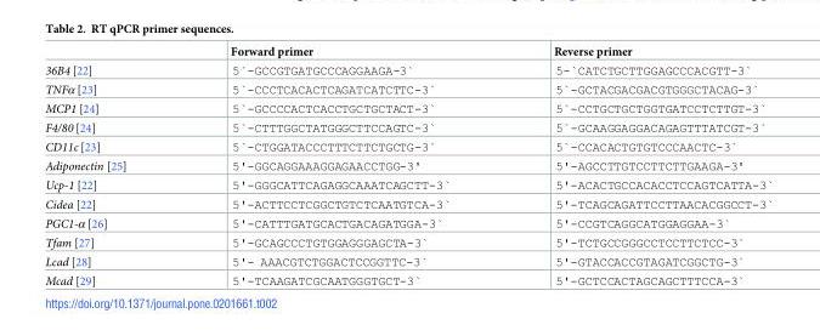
<table><thead><tr><td></td><td>Forward primer</td><td>Reverse primer</td></tr></thead><tbody><tr><td>36B4 [22]</td><td>5`-GCCGTGATGCCCAGGAAGA-3`</td><td>5-`CATCTGCTTGGAGCCCACGTT-3`</td></tr><tr><td>TNFα [23]</td><td>5`-CCCTCACACTCAGATCATCTTC-3`</td><td>5`-GCTACGACGACGTGGGCTACAG-3`</td></tr><tr><td>MCP1 [24]</td><td>5`-GCCCCACTCACCTGCTGCTACT-3`</td><td>5`-CCTGCTGCTGGTGATCCTCTTGT-3`</td></tr><tr><td>F4/80 [24]</td><td>5`-CTTTGGCTATGGGCTTCCAGTC-3`</td><td>5`-GCAAGGAGGACAGAGTTTATCGT-3`</td></tr><tr><td>CD11c [23]</td><td>5`-CTGGATACCCTTTCTTCTGCTG-3`</td><td>5`-CCACACTGTGTCCCAACTC-3`</td></tr><tr><td>Adiponectin [25]</td><td>5&#x27;-GGCAGGAAAGGAGAACCTGG-3&#x27;</td><td>5&#x27;-AGCCTTGTCCTTCTTGAAGA-3&#x27;</td></tr><tr><td>Ucp-1 [22]</td><td>5&#x27;-GGGCATTCAGAGGCAAATCAGCTT-3`</td><td>5&#x27;-ACACTGCCACACCTCCAGTCATTA-3`</td></tr><tr><td>Cidea [22]</td><td>5&#x27;-ACTTCCTCGGCTGTCTCAATGTCA-3`</td><td>5&#x27;-TCAGCAGATTCCTTAACACGGCCT-3`</td></tr><tr><td>PGC1-α [26]</td><td>5&#x27;-CATTTGATGCACTGACAGATGGA-3`</td><td>5&#x27;-CCGTCAGGCATGGAGGAA-3`</td></tr><tr><td>Tfam [27]</td><td>5&#x27;-GCAGCCCTGTGGAGGGAGCTA-3`</td><td>5&#x27;-TCTGCCGGGCCTCCTTCTCC-3`</td></tr><tr><td>Lcad [28]</td><td>5&#x27;- AAACGTCTGGACTCCGGTTC-3`</td><td>5&#x27;-GTACCACCGTAGATCGGCTG-3`</td></tr><tr><td>Mcad [29]</td><td>5&#x27;-TCAAGATCGCAATGGGTGCT-3`</td><td>5&#x27;-GCTCCACTAGCAGCTTTCCA-3`</td></tr></tbody></table>